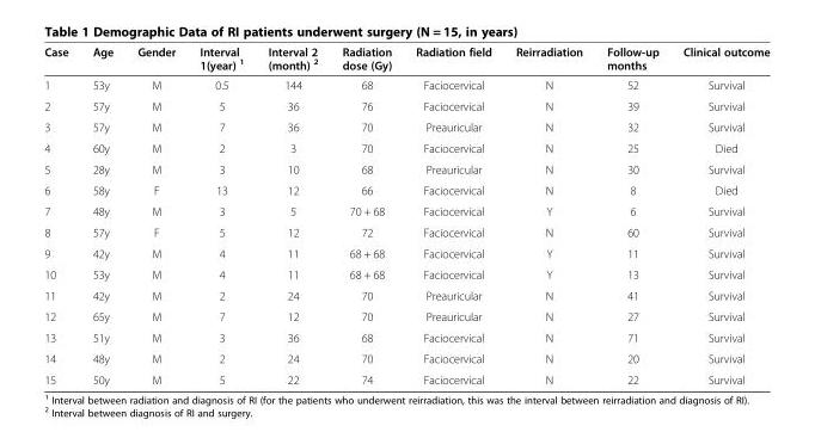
<table><thead><tr><td>Case</td><td>Age</td><td>Gender</td><td>Interval 1(year) <sup>1</sup></td><td>Interval 2 (month) <sup>2</sup></td><td>Radiation dose (Gy)</td><td>Radiation field</td><td>Reirradiation</td><td>Follow-up months</td><td>Clinical outcome</td></tr></thead><tbody><tr><td>1</td><td>53y</td><td>M</td><td>0.5</td><td>144</td><td>68</td><td>Faciocervical</td><td>N</td><td>52</td><td>Survival</td></tr><tr><td>2</td><td>57y</td><td>M</td><td>5</td><td>36</td><td>76</td><td>Faciocervical</td><td>N</td><td>39</td><td>Survival</td></tr><tr><td>3</td><td>57y</td><td>M</td><td>7</td><td>36</td><td>70</td><td>Preauricular</td><td>N</td><td>32</td><td>Survival</td></tr><tr><td>4</td><td>60y</td><td>M</td><td>2</td><td>3</td><td>70</td><td>Faciocervical</td><td>N</td><td>25</td><td>Died</td></tr><tr><td>5</td><td>28y</td><td>M</td><td>3</td><td>10</td><td>68</td><td>Preauricular</td><td>N</td><td>30</td><td>Survival</td></tr><tr><td>6</td><td>58y</td><td>F</td><td>13</td><td>12</td><td>66</td><td>Faciocervical</td><td>N</td><td>8</td><td>Died</td></tr><tr><td>7</td><td>48y</td><td>M</td><td>3</td><td>5</td><td>70 + 68</td><td>Faciocervical</td><td>Y</td><td>6</td><td>Survival</td></tr><tr><td>8</td><td>57y</td><td>F</td><td>5</td><td>12</td><td>72</td><td>Faciocervical</td><td>N</td><td>60</td><td>Survival</td></tr><tr><td>9</td><td>42y</td><td>M</td><td>4</td><td>11</td><td>68 + 68</td><td>Faciocervical</td><td>Y</td><td>11</td><td>Survival</td></tr><tr><td>10</td><td>53y</td><td>M</td><td>4</td><td>11</td><td>68 + 68</td><td>Faciocervical</td><td>Y</td><td>13</td><td>Survival</td></tr><tr><td>11</td><td>42y</td><td>M</td><td>2</td><td>24</td><td>70</td><td>Preauricular</td><td>N</td><td>41</td><td>Survival</td></tr><tr><td>12</td><td>65y</td><td>M</td><td>7</td><td>12</td><td>70</td><td>Preauricular</td><td>N</td><td>27</td><td>Survival</td></tr><tr><td>13</td><td>51y</td><td>M</td><td>3</td><td>36</td><td>68</td><td>Faciocervical</td><td>N</td><td>71</td><td>Survival</td></tr><tr><td>14</td><td>48y</td><td>M</td><td>2</td><td>24</td><td>70</td><td>Faciocervical</td><td>N</td><td>20</td><td>Survival</td></tr><tr><td>15</td><td>50y</td><td>M</td><td>5</td><td>22</td><td>74</td><td>Faciocervical</td><td>N</td><td>22</td><td>Survival</td></tr></tbody></table>